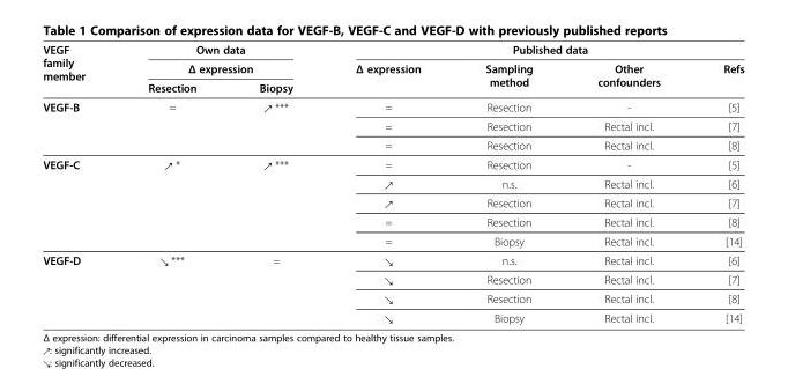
<table><thead><tr><td rowspan="3">VEGF family member</td><td rowspan="2" colspan="2">Own data Δ expression</td><td colspan="4">Published data</td></tr><tr><td rowspan="2">Δ expression</td><td rowspan="2">Sampling method</td><td rowspan="2">Other confounders</td><td rowspan="2">Refs</td></tr><tr><td>Resection</td><td>Biopsy</td></tr></thead><tbody><tr><td rowspan="3">VEGF-B</td><td rowspan="3">=</td><td rowspan="3">↗ ***</td><td>=</td><td>Resection</td><td>-</td><td>[5]</td></tr><tr><td>=</td><td>Resection</td><td>Rectal incl.</td><td>[7]</td></tr><tr><td>=</td><td>Resection</td><td>Rectal incl.</td><td>[8]</td></tr><tr><td rowspan="5">VEGF-C</td><td rowspan="5">↗ *</td><td rowspan="5">↗ ***</td><td>=</td><td>Resection</td><td>-</td><td>[5]</td></tr><tr><td>↗</td><td>n.s.</td><td>Rectal incl.</td><td>[6]</td></tr><tr><td>↗</td><td>Resection</td><td>Rectal incl.</td><td>[7]</td></tr><tr><td>=</td><td>Resection</td><td>Rectal incl.</td><td>[8]</td></tr><tr><td>=</td><td>Biopsy</td><td>Rectal incl.</td><td>[14]</td></tr><tr><td rowspan="4">VEGF-D</td><td rowspan="4">↘ ***</td><td rowspan="4">=</td><td>↘</td><td>n.s.</td><td>Rectal incl.</td><td>[6]</td></tr><tr><td>↘</td><td>Resection</td><td>Rectal incl.</td><td>[7]</td></tr><tr><td>↘</td><td>Resection</td><td>Rectal incl.</td><td>[8]</td></tr><tr><td>↘</td><td>Biopsy</td><td>Rectal incl.</td><td>[14]</td></tr></tbody></table>